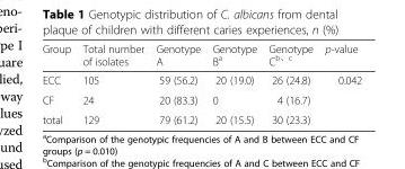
<table><thead><tr><td>Group</td><td>Total number of isolates</td><td>Genotype A</td><td>Genotype B<sup>a</sup></td><td>Genotype C<sup>b、c</sup></td><td>p-value</td></tr></thead><tbody><tr><td>ECC</td><td>105</td><td>59 (56.2)</td><td>20 (19.0)</td><td>26 (24.8)</td><td rowspan="3">0.042</td></tr><tr><td>CF</td><td>24</td><td>20 (83.3)</td><td>0</td><td>4 (16.7)</td></tr><tr><td>total</td><td>129</td><td>79 (61.2)</td><td>20 (15.5)</td><td>30 (23.3)</td></tr></tbody></table>